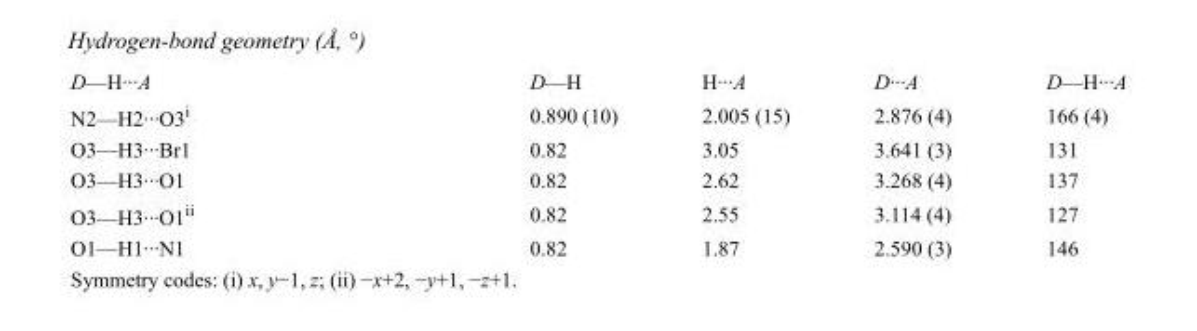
<table><tbody><tr><td>D—H···A</td><td>D—H</td><td>H···A</td><td>D···A</td><td>D—H···A</td></tr><tr><td>N2—H2···O3<sup>i</sup></td><td>0.890 (10)</td><td>2.005 (15)</td><td>2.876 (4)</td><td>166 (4)</td></tr><tr><td>O3—H3···Br1</td><td>0.82</td><td>3.05</td><td>3.641 (3)</td><td>131</td></tr><tr><td>O3—H3···O1</td><td>0.82</td><td>2.62</td><td>3.268 (4)</td><td>137</td></tr><tr><td>O3—H3···O1<sup>ii</sup></td><td>0.82</td><td>2.55</td><td>3.114 (4)</td><td>127</td></tr><tr><td>O1—H1···N1</td><td>0.82</td><td>1.87</td><td>2.590 (3)</td><td>146</td></tr></tbody></table>